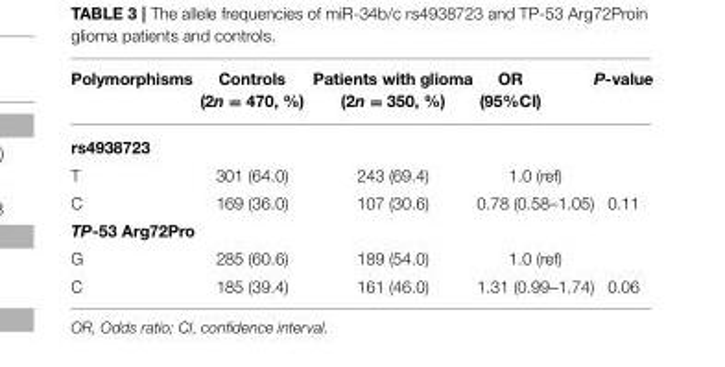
<table><thead><tr><td>Polymorphisms</td><td>Controls (2n = 470, %)</td><td>Patients with glioma (2n = 350, %)</td><td>OR (95%CI)</td><td>P-value</td></tr></thead><tbody><tr><td colspan="5">rs4938723</td></tr><tr><td>T</td><td>301 (64.0)</td><td>243 (69.4)</td><td>1.0 (ref)</td><td></td></tr><tr><td>C</td><td>169 (36.0)</td><td>107 (30.6)</td><td>0.78 (0.58–1.05)</td><td>0.11</td></tr><tr><td colspan="5">TP-53 Arg72Pro</td></tr><tr><td>G</td><td>285 (60.6)</td><td>189 (54.0)</td><td>1.0 (ref)</td><td></td></tr><tr><td>C</td><td>185 (39.4)</td><td>161 (46.0)</td><td>1.31 (0.99–1.74)</td><td>0.06</td></tr></tbody></table>